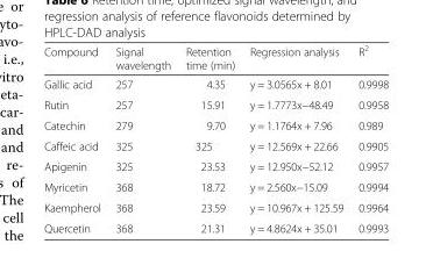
<table><thead><tr><td>Compound</td><td>Signal wavelength</td><td>Retention time (min)</td><td>Regression analysis</td><td>R<sup>2</sup></td></tr></thead><tbody><tr><td>Gallic acid</td><td>257</td><td>4.35</td><td>y = 3.0565x + 8.01</td><td>0.9998</td></tr><tr><td>Rutin</td><td>257</td><td>15.91</td><td>y = 1.7773x−48.49</td><td>0.9958</td></tr><tr><td>Catechin</td><td>279</td><td>9.70</td><td>y = 1.1764x + 7.96</td><td>0.989</td></tr><tr><td>Caffeic acid</td><td>325</td><td>325</td><td>y = 12.569x + 22.66</td><td>0.9905</td></tr><tr><td>Apigenin</td><td>325</td><td>23.53</td><td>y = 12.950x−52.12</td><td>0.9957</td></tr><tr><td>Myricetin</td><td>368</td><td>18.72</td><td>y = 2.560x−15.09</td><td>0.9994</td></tr><tr><td>Kaempherol</td><td>368</td><td>23.59</td><td>y = 10.967x + 125.59</td><td>0.9964</td></tr><tr><td>Quercetin</td><td>368</td><td>21.31</td><td>y = 4.8624x + 35.01</td><td>0.9993</td></tr></tbody></table>